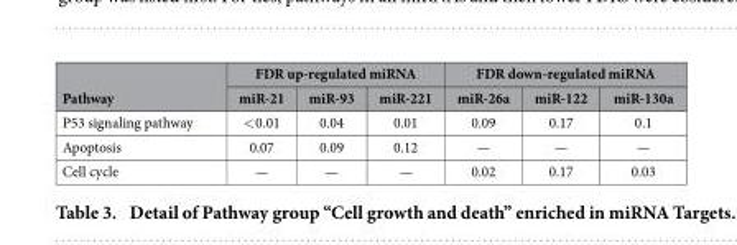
<table><thead><tr><td rowspan="2">Pathway</td><td colspan="3">FDR up-regulated miRNA</td><td colspan="3">FDR down-regulated miRNA</td></tr><tr><td>miR-21</td><td>miR-93</td><td>miR-221</td><td>miR-26a</td><td>miR-122</td><td>miR-130a</td></tr></thead><tbody><tr><td>P53 signaling pathway</td><td>&lt; 0.01</td><td>0.04</td><td>0.01</td><td>0.09</td><td>0.17</td><td>0.1</td></tr><tr><td>Apoptosis</td><td>0.07</td><td>0.09</td><td>0.12</td><td>—</td><td>—</td><td>—</td></tr><tr><td>Cell cycle</td><td>—</td><td>—</td><td>—</td><td>0.02</td><td>0.17</td><td>0.03</td></tr></tbody></table>